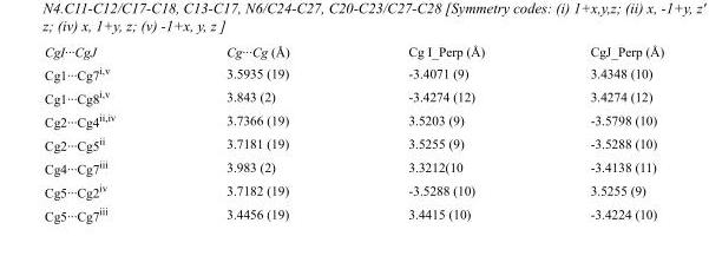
<table><tbody><tr><td>CgI···CgJ</td><td>Cg···Cg (Å)</td><td>Cg I_Perp (Å)</td><td>CgJ_Perp (Å)</td></tr><tr><td>Cg1···Cg7<sup>i,v</sup></td><td>3.5935 (19)</td><td>-3.4071 (9)</td><td>3.4348 (10)</td></tr><tr><td>Cg1···Cg8<sup>i,v</sup></td><td>3.843 (2)</td><td>-3.4274 (12)</td><td>3.4274 (12)</td></tr><tr><td>Cg2···Cg4<sup>ii,iv</sup></td><td>3.7366 (19)</td><td>3.5203 (9)</td><td>-3.5798 (10)</td></tr><tr><td>Cg2···Cg5<sup>ii</sup></td><td>3.7181 (19)</td><td>3.5255 (9)</td><td>-3.5288 (10)</td></tr><tr><td>Cg4···Cg7<sup>iii</sup></td><td>3.983 (2)</td><td>3.3212(10</td><td>-3.4138 (11)</td></tr><tr><td>Cg5···Cg2<sup>iv</sup></td><td>3.7182 (19)</td><td>-3.5288 (10)</td><td>3.5255 (9)</td></tr><tr><td>Cg5···Cg7<sup>iii</sup></td><td>3.4456 (19)</td><td>3.4415 (10)</td><td>-3.4224 (10)</td></tr></tbody></table>